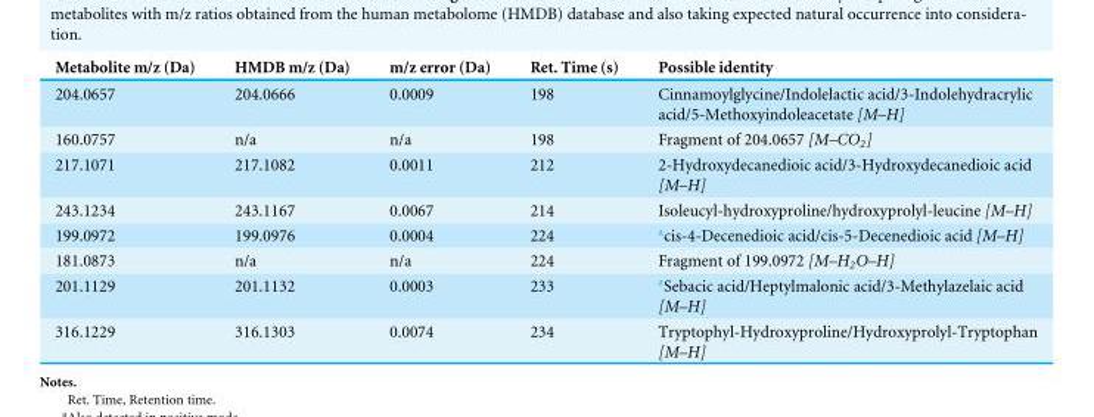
<table><thead><tr><td>Metabolite m/z (Da)</td><td>HMDB m/z (Da)</td><td>m/z error (Da)</td><td>Ret. Time (s)</td><td>Possible identity</td></tr></thead><tbody><tr><td>204.0657</td><td>204.0666</td><td>0.0009</td><td>198</td><td>Cinnamoylglycine/Indolelactic acid/3-Indolehydracrylic acid/5-Methoxyindoleacetate [M–H]</td></tr><tr><td>160.0757</td><td>n/a</td><td>n/a</td><td>198</td><td>Fragment of 204.0657 [M–CO<sub>2</sub>]</td></tr><tr><td>217.1071</td><td>217.1082</td><td>0.0011</td><td>212</td><td>2-Hydroxydecanedioic acid/3-Hydroxydecanedioic acid [M–H]</td></tr><tr><td>243.1234</td><td>243.1167</td><td>0.0067</td><td>214</td><td>Isoleucyl-hydroxyproline/hydroxyprolyl-leucine [M–H]</td></tr><tr><td>199.0972</td><td>199.0976</td><td>0.0004</td><td>224</td><td><sup>a</sup>cis-4-Decenedioic acid/cis-5-Decenedioic acid [M–H]</td></tr><tr><td>181.0873</td><td>n/a</td><td>n/a</td><td>224</td><td>Fragment of 199.0972 [M–H<sub>2</sub>O–H]</td></tr><tr><td>201.1129</td><td>201.1132</td><td>0.0003</td><td>233</td><td><sup>a</sup>Sebacic acid/Heptylmalonic acid/3-Methylazelaic acid [M–H]</td></tr><tr><td>316.1229</td><td>316.1303</td><td>0.0074</td><td>234</td><td>Tryptophyl-Hydroxyproline/Hydroxyprolyl-Tryptophan [M–H]</td></tr></tbody></table>